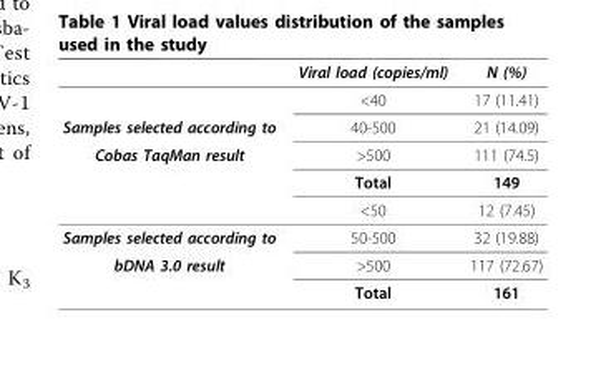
<table><thead><tr><td></td><td>Viral load (copies/ml)</td><td>N (%)</td></tr></thead><tbody><tr><td></td><td>&lt;40</td><td>17 (11.41)</td></tr><tr><td>Samples selected according to</td><td>40-500</td><td>21 (14.09)</td></tr><tr><td rowspan="3">Cobas TaqMan result</td><td>&gt;500</td><td>111 (74.5)</td></tr><tr><td>Total</td><td>149</td></tr><tr><td>&lt;50</td><td>12 (7.45)</td></tr><tr><td>Samples selected according to</td><td>50-500</td><td>32 (19.88)</td></tr><tr><td rowspan="2">bDNA 3.0 result</td><td>&gt;500</td><td>117 (72.67)</td></tr><tr><td>Total</td><td>161</td></tr></tbody></table>